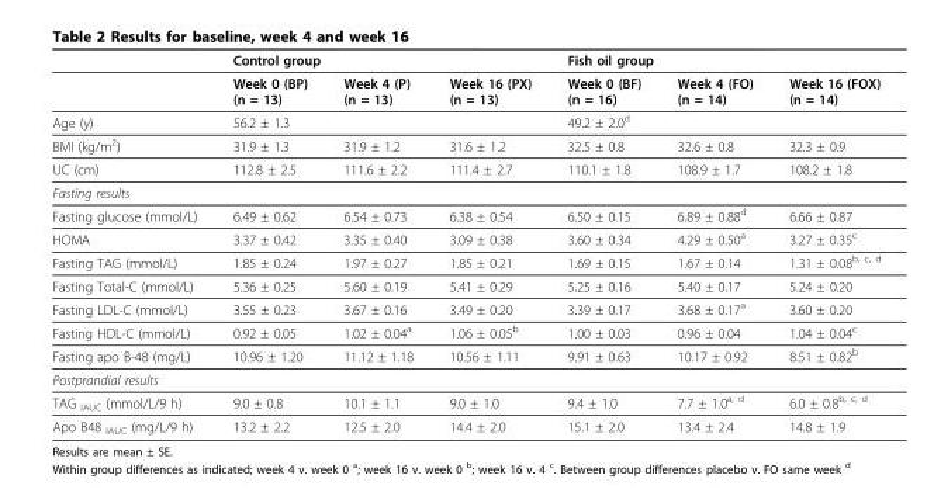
<table><thead><tr><td rowspan="2"></td><td colspan="3">Control group</td><td colspan="3">Fish oil group</td></tr><tr><td>Week 0 (BP) (n = 13)</td><td>Week 4 (P) (n = 13)</td><td>Week 16 (PX) (n = 13)</td><td>Week 0 (BF) (n = 16)</td><td>Week 4 (FO) (n = 14)</td><td>Week 16 (FOX) (n = 14)</td></tr></thead><tbody><tr><td>Age (y)</td><td>56.2 ± 1.3</td><td></td><td></td><td>49.2 ± 2.0<sup>d</sup></td><td></td><td></td></tr><tr><td>BMI (kg/m<sup>2</sup>)</td><td>31.9 ± 1.3</td><td>31.9 ± 1.2</td><td>31.6 ± 1.2</td><td>32.5 ± 0.8</td><td>32.6 ± 0.8</td><td>32.3 ± 0.9</td></tr><tr><td>UC (cm)</td><td>112.8 ± 2.5</td><td>111.6 ± 2.2</td><td>111.4 ± 2.7</td><td>110.1 ± 1.8</td><td>108.9 ± 1.7</td><td>108.2 ± 1.8</td></tr><tr><td colspan="7">Fasting results</td></tr><tr><td>Fasting glucose (mmol/L)</td><td>6.49 ± 0.62</td><td>6.54 ± 0.73</td><td>6.38 ± 0.54</td><td>6.50 ± 0.15</td><td>6.89 ± 0.88<sup>d</sup></td><td>6.66 ± 0.87</td></tr><tr><td>HOMA</td><td>3.37 ± 0.42</td><td>3.35 ± 0.40</td><td>3.09 ± 0.38</td><td>3.60 ± 0.34</td><td>4.29 ± 0.50<sup>a</sup></td><td>3.27 ± 0.35<sup>c</sup></td></tr><tr><td>Fasting TAG (mmol/L)</td><td>1.85 ± 0.24</td><td>1.97 ± 0.27</td><td>1.85 ± 0.21</td><td>1.69 ± 0.15</td><td>1.67 ± 0.14</td><td>1.31 ± 0.08<sup>b, c, d</sup></td></tr><tr><td>Fasting Total-C (mmol/L)</td><td>5.36 ± 0.25</td><td>5.60 ± 0.19</td><td>5.41 ± 0.29</td><td>5.25 ± 0.16</td><td>5.40 ± 0.17</td><td>5.24 ± 0.20</td></tr><tr><td>Fasting LDL-C (mmol/L)</td><td>3.55 ± 0.23</td><td>3.67 ± 0.16</td><td>3.49 ± 0.20</td><td>3.39 ± 0.17</td><td>3.68 ± 0.17<sup>a</sup></td><td>3.60 ± 0.20</td></tr><tr><td>Fasting HDL-C (mmol/L)</td><td>0.92 ± 0.05</td><td>1.02 ± 0.04<sup>a</sup></td><td>1.06 ± 0.05<sup>b</sup></td><td>1.00 ± 0.03</td><td>0.96 ± 0.04</td><td>1.04 ± 0.04<sup>c</sup></td></tr><tr><td>Fasting apo B-48 (mg/L)</td><td>10.96 ± 1.20</td><td>11.12 ± 1.18</td><td>10.56 ± 1.11</td><td>9.91 ± 0.63</td><td>10.17 ± 0.92</td><td>8.51 ± 0.82<sup>b</sup></td></tr><tr><td colspan="7">Postprandial results</td></tr><tr><td>TAG <sub>IAUC</sub> (mmol/L/9 h)</td><td>9.0 ± 0.8</td><td>10.1 ± 1.1</td><td>9.0 ± 1.0</td><td>9.4 ± 1.0</td><td>7.7 ± 1.0<sup>a, d</sup></td><td>6.0 ± 0.8<sup>b, c, d</sup></td></tr><tr><td>Apo B48 <sub>IAUC</sub> (mg/L/9 h)</td><td>13.2 ± 2.2</td><td>12.5 ± 2.0</td><td>14.4 ± 2.0</td><td>15.1 ± 2.0</td><td>13.4 ± 2.4</td><td>14.8 ± 1.9</td></tr></tbody></table>